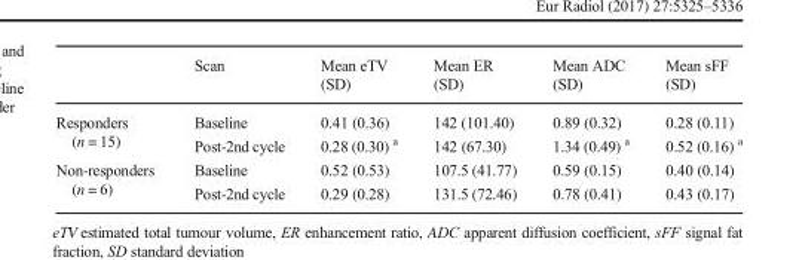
<table><thead><tr><td></td><td>Scan</td><td>Mean eTV (SD)</td><td>Mean ER (SD)</td><td>Mean ADC (SD)</td><td>Mean sFF (SD)</td></tr></thead><tbody><tr><td rowspan="2">Responders (n = 15)</td><td>Baseline</td><td>0.41 (0.36)</td><td>142 (101.40)</td><td>0.89 (0.32)</td><td>0.28 (0.11)</td></tr><tr><td>Post-2nd cycle</td><td>0.28 (0.30) <sup>a</sup></td><td>142 (67.30)</td><td>1.34 (0.49) <sup>a</sup></td><td>0.52 (0.16) <sup>a</sup></td></tr><tr><td rowspan="2">Non-responders (n = 6)</td><td>Baseline</td><td>0.52 (0.53)</td><td>107.5 (41.77)</td><td>0.59 (0.15)</td><td>0.40 (0.14)</td></tr><tr><td>Post-2nd cycle</td><td>0.29 (0.28)</td><td>131.5 (72.46)</td><td>0.78 (0.41)</td><td>0.43 (0.17)</td></tr></tbody></table>